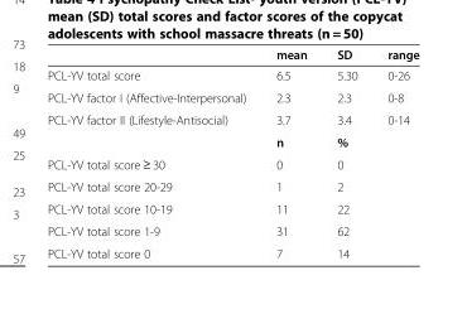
<table><thead><tr><td></td><td>mean</td><td>SD</td><td>range</td></tr></thead><tbody><tr><td>PCL-YV total score</td><td>6.5</td><td>5.30</td><td>0-26</td></tr><tr><td>PCL-YV factor I (Affective-Interpersonal)</td><td>2.3</td><td>2.3</td><td>0-8</td></tr><tr><td rowspan="2">PCL-YV factor II (Lifestyle-Antisocial)</td><td>3.7</td><td>3.4</td><td>0-14</td></tr><tr><td>n</td><td>%</td><td></td></tr><tr><td>PCL-YV total score ≥ 30</td><td>0</td><td>0</td><td></td></tr><tr><td>PCL-YV total score 20-29</td><td>1</td><td>2</td><td></td></tr><tr><td>PCL-YV total score 10-19</td><td>11</td><td>22</td><td></td></tr><tr><td>PCL-YV total score 1-9</td><td>31</td><td>62</td><td></td></tr><tr><td>PCL-YV total score 0</td><td>7</td><td>14</td><td></td></tr></tbody></table>